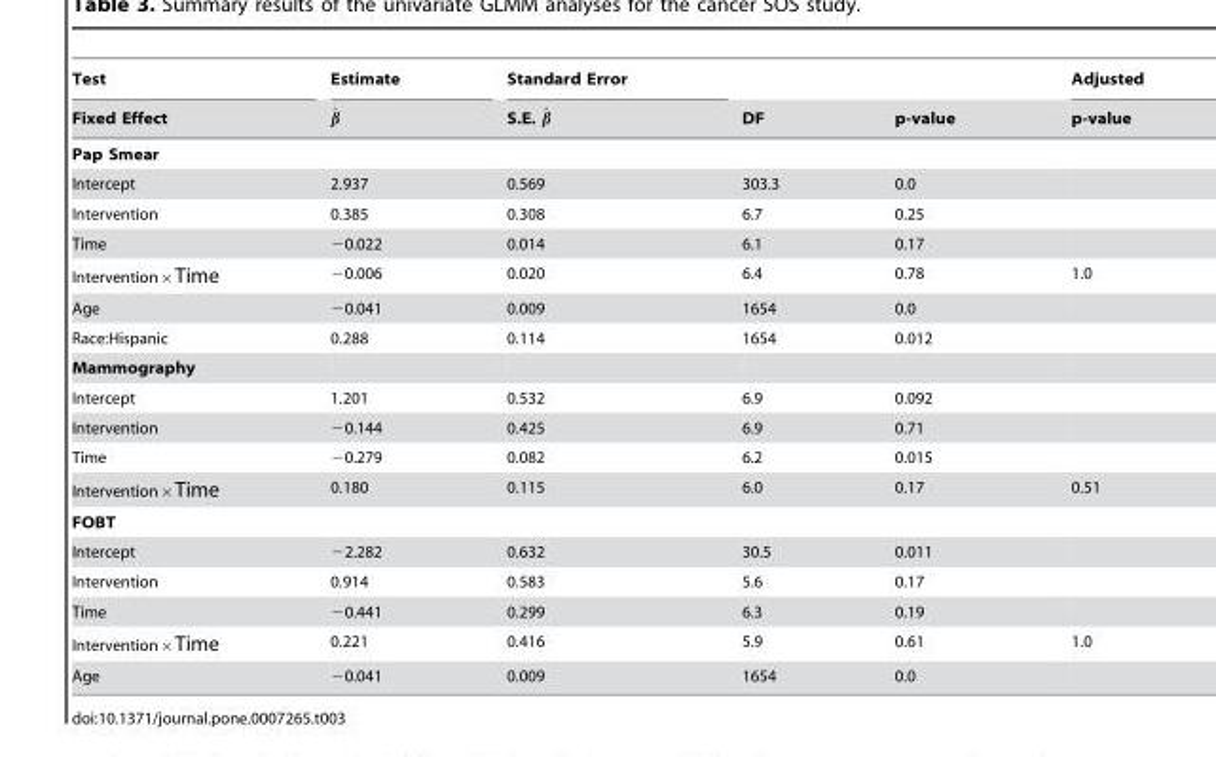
<table><thead><tr><td rowspan="2">Test Fixed Effect</td><td rowspan="2">Estimate ^b</td><td rowspan="2">Standard Error S.E. ^b</td><td rowspan="2">DF</td><td rowspan="2">p-value</td><td rowspan="2">Adjusted p-value</td></tr><tr></tr></thead><tbody><tr><td colspan="6">Pap Smear</td></tr><tr><td>Intercept</td><td>2.937</td><td>0.569</td><td>303.3</td><td>0.0</td><td></td></tr><tr><td>Intervention</td><td>0.385</td><td>0.308</td><td>6.7</td><td>0.25</td><td></td></tr><tr><td>Time</td><td>−0.022</td><td>0.014</td><td>6.1</td><td>0.17</td><td></td></tr><tr><td>Intervention|Time</td><td>−0.006</td><td>0.020</td><td>6.4</td><td>0.78</td><td>1.0</td></tr><tr><td>Age</td><td>−0.041</td><td>0.009</td><td>1654</td><td>0.0</td><td></td></tr><tr><td>Race:Hispanic</td><td>0.288</td><td>0.114</td><td>1654</td><td>0.012</td><td></td></tr><tr><td colspan="6">Mammography</td></tr><tr><td>Intercept</td><td>1.201</td><td>0.532</td><td>6.9</td><td>0.092</td><td></td></tr><tr><td>Intervention</td><td>−0.144</td><td>0.425</td><td>6.9</td><td>0.71</td><td></td></tr><tr><td>Time</td><td>−0.279</td><td>0.082</td><td>6.2</td><td>0.015</td><td></td></tr><tr><td>Intervention|Time</td><td>0.180</td><td>0.115</td><td>6.0</td><td>0.17</td><td>0.51</td></tr><tr><td colspan="6">FOBT</td></tr><tr><td>Intercept</td><td>−2.282</td><td>0.632</td><td>30.5</td><td>0.011</td><td></td></tr><tr><td>Intervention</td><td>0.914</td><td>0.583</td><td>5.6</td><td>0.17</td><td></td></tr><tr><td>Time</td><td>−0.441</td><td>0.299</td><td>6.3</td><td>0.19</td><td></td></tr><tr><td>Intervention|Time</td><td>0.221</td><td>0.416</td><td>5.9</td><td>0.61</td><td>1.0</td></tr><tr><td>Age</td><td>−0.041</td><td>0.009</td><td>1654</td><td>0.0</td><td></td></tr></tbody></table>